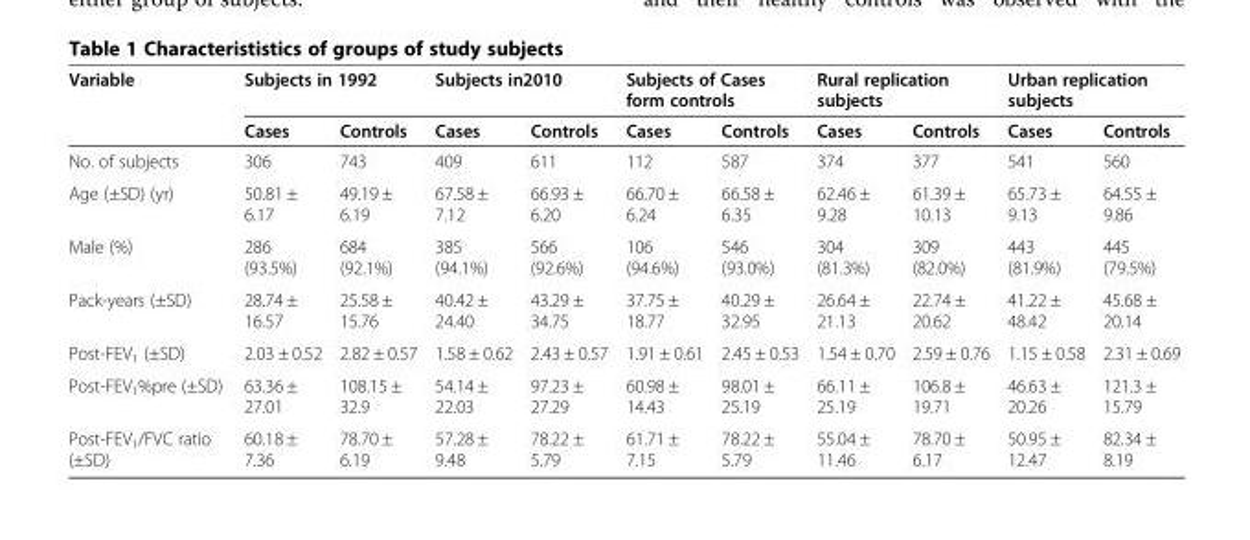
<table><thead><tr><td rowspan="2">Variable</td><td colspan="2">Subjects in 1992</td><td colspan="2">Subjects in2010</td><td colspan="2">Subjects of Cases form controls</td><td colspan="2">Rural replication subjects</td><td colspan="2">Urban replication subjects</td></tr><tr><td>Cases</td><td>Controls</td><td>Cases</td><td>Controls</td><td>Cases</td><td>Controls</td><td>Cases</td><td>Controls</td><td>Cases</td><td>Controls</td></tr></thead><tbody><tr><td>No. of subjects</td><td>306</td><td>743</td><td>409</td><td>611</td><td>112</td><td>587</td><td>374</td><td>377</td><td>541</td><td>560</td></tr><tr><td>Age (±SD) (yr)</td><td>50.81 ± 6.17</td><td>49.19 ± 6.19</td><td>67.58 ± 7.12</td><td>66.93 ± 6.20</td><td>66.70 ± 6.24</td><td>66.58 ± 6.35</td><td>62.46 ± 9.28</td><td>61.39 ± 10.13</td><td>65.73 ± 9.13</td><td>64.55 ± 9.86</td></tr><tr><td>Male (%)</td><td>286 (93.5%)</td><td>684 (92.1%)</td><td>385 (94.1%)</td><td>566 (92.6%)</td><td>106 (94.6%)</td><td>546 (93.0%)</td><td>304 (81.3%)</td><td>309 (82.0%)</td><td>443 (81.9%)</td><td>445 (79.5%)</td></tr><tr><td>Pack-years (±SD)</td><td>28.74 ± 16.57</td><td>25.58 ± 15.76</td><td>40.42 ± 24.40</td><td>43.29 ± 34.75</td><td>37.75 ± 18.77</td><td>40.29 ± 32.95</td><td>26.64 ± 21.13</td><td>22.74 ± 20.62</td><td>41.22 ± 48.42</td><td>45.68 ± 20.14</td></tr><tr><td>Post-FEV<sub>1</sub> (±SD)</td><td>2.03 ± 0.52</td><td>2.82 ± 0.57</td><td>1.58 ± 0.62</td><td>2.43 ± 0.57</td><td>1.91 ± 0.61</td><td>2.45 ± 0.53</td><td>1.54 ± 0.70</td><td>2.59 ± 0.76</td><td>1.15 ± 0.58</td><td>2.31 ± 0.69</td></tr><tr><td>Post-FEV<sub>1</sub>%pre (±SD)</td><td>63.36 ± 27.01</td><td>108.15 ± 32.9</td><td>54.14 ± 22.03</td><td>97.23 ± 27.29</td><td>60.98 ± 14.43</td><td>98.01 ± 25.19</td><td>66.11 ± 25.19</td><td>106.8 ± 19.71</td><td>46.63 ± 20.26</td><td>121.3 ± 15.79</td></tr><tr><td>Post-FEV<sub>1</sub>/FVC ratio (±SD)</td><td>60.18 ± 7.36</td><td>78.70 ± 6.19</td><td>57.28 ± 9.48</td><td>78.22 ± 5.79</td><td>61.71 ± 7.15</td><td>78.22 ± 5.79</td><td>55.04 ± 11.46</td><td>78.70 ± 6.17</td><td>50.95 ± 12.47</td><td>82.34 ± 8.19</td></tr></tbody></table>